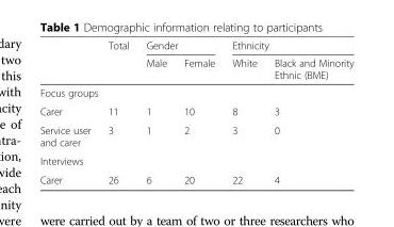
<table><thead><tr><td rowspan="2"></td><td rowspan="2">Total</td><td colspan="2">Gender</td><td colspan="2">Ethnicity</td></tr><tr><td>Male</td><td>Female</td><td>White</td><td>Black and Minority Ethnic (BME)</td></tr></thead><tbody><tr><td colspan="6">Focus groups</td></tr><tr><td>Carer</td><td>11</td><td>1</td><td>10</td><td>8</td><td>3</td></tr><tr><td>Service user and carer</td><td>3</td><td>1</td><td>2</td><td>3</td><td>0</td></tr><tr><td colspan="6">Interviews</td></tr><tr><td>Carer</td><td>26</td><td>6</td><td>20</td><td>22</td><td>4</td></tr></tbody></table>